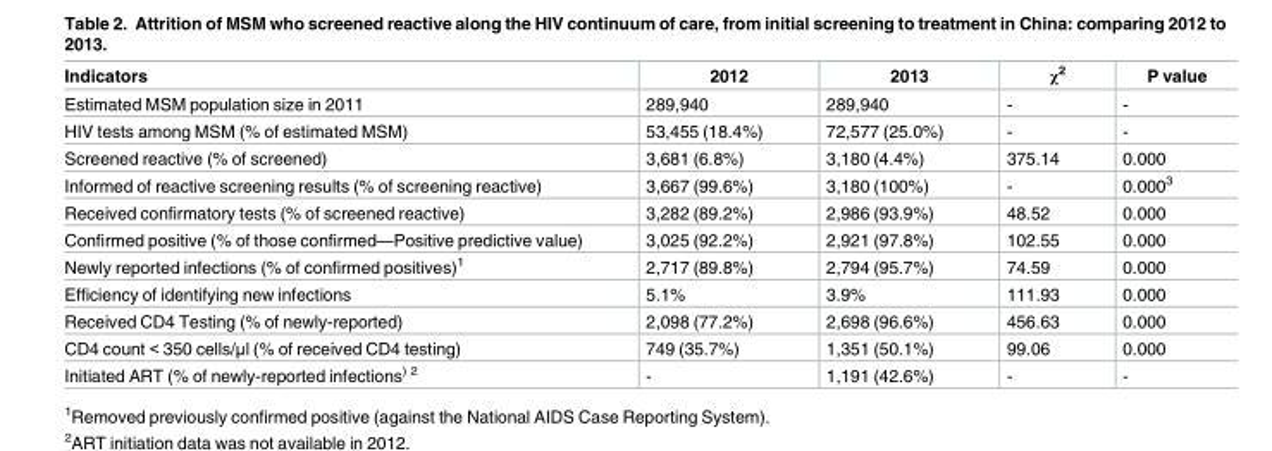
<table><thead><tr><td>Indicators</td><td>2012</td><td>2013</td><td>χ<sup>2</sup></td><td>P value</td></tr></thead><tbody><tr><td>Estimated MSM population size in 2011</td><td>289,940</td><td>289,940</td><td>-</td><td>-</td></tr><tr><td>HIV tests among MSM (% of estimated MSM)</td><td>53,455 (18.4%)</td><td>72,577 (25.0%)</td><td>-</td><td>-</td></tr><tr><td>Screened reactive (% of screened)</td><td>3,681 (6.8%)</td><td>3,180 (4.4%)</td><td>375.14</td><td>0.000</td></tr><tr><td>Informed of reactive screening results (% of screening reactive)</td><td>3,667 (99.6%)</td><td>3,180 (100%)</td><td>-</td><td>0.000<sup>3</sup></td></tr><tr><td>Received confirmatory tests (% of screened reactive)</td><td>3,282 (89.2%)</td><td>2,986 (93.9%)</td><td>48.52</td><td>0.000</td></tr><tr><td>Confirmed positive (% of those confirmed—Positive predictive value)</td><td>3,025 (92.2%)</td><td>2,921 (97.8%)</td><td>102.55</td><td>0.000</td></tr><tr><td>Newly reported infections (% of confirmed positives)<sup>1</sup></td><td>2,717 (89.8%)</td><td>2,794 (95.7%)</td><td>74.59</td><td>0.000</td></tr><tr><td>Efficiency of identifying new infections</td><td>5.1%</td><td>3.9%</td><td>111.93</td><td>0.000</td></tr><tr><td>Received CD4 Testing (% of newly-reported)</td><td>2,098 (77.2%)</td><td>2,698 (96.6%)</td><td>456.63</td><td>0.000</td></tr><tr><td>CD4 count &lt; 350 cells/μl (% of received CD4 testing)</td><td>749 (35.7%)</td><td>1,351 (50.1%)</td><td>99.06</td><td>0.000</td></tr><tr><td>Initiated ART (% of newly-reported infections<sup>) 2</sup></td><td>-</td><td>1,191 (42.6%)</td><td>-</td><td>-</td></tr></tbody></table>